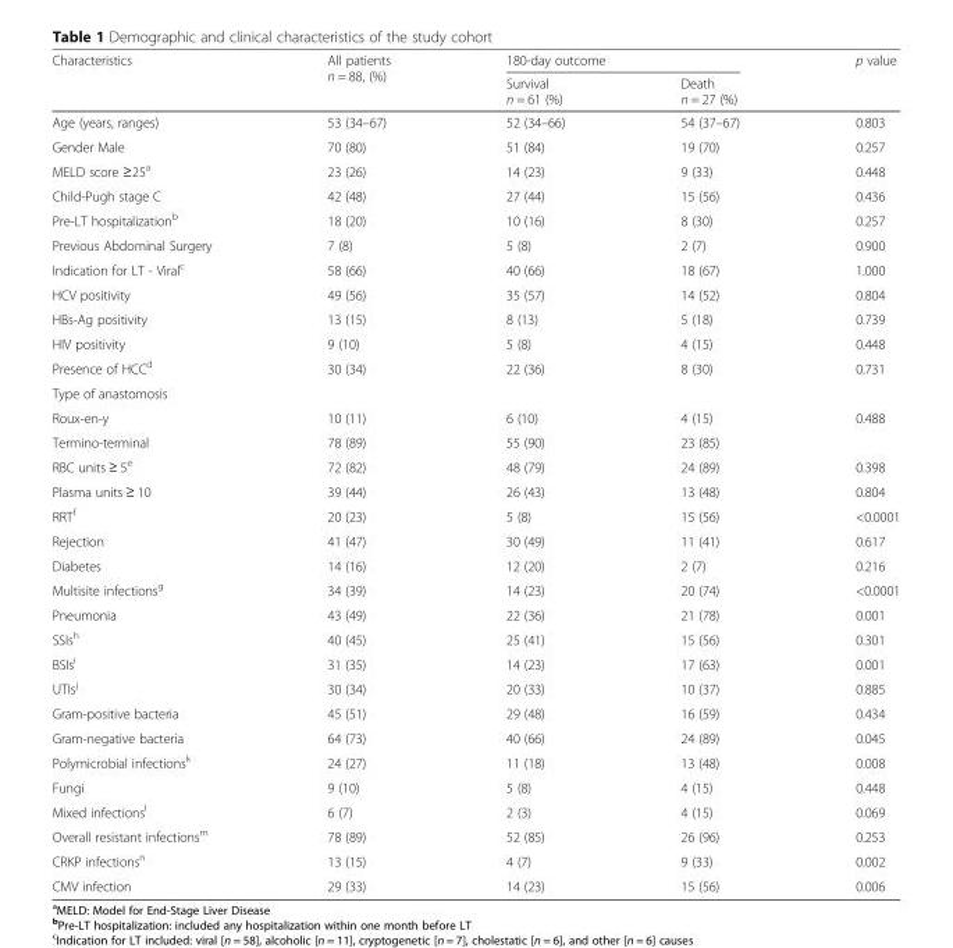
<table><thead><tr><td rowspan="2">Characteristics</td><td rowspan="2">All patients n = 88, (%)</td><td colspan="2">180-day outcome</td><td rowspan="2">p value</td></tr><tr><td>Survival n = 61 (%)</td><td>Death n = 27 (%)</td></tr></thead><tbody><tr><td>Age (years, ranges)</td><td>53 (34–67)</td><td>52 (34–66)</td><td>54 (37–67)</td><td>0.803</td></tr><tr><td>Gender Male</td><td>70 (80)</td><td>51 (84)</td><td>19 (70)</td><td>0.257</td></tr><tr><td>MELD score ≥25<sup>a</sup></td><td>23 (26)</td><td>14 (23)</td><td>9 (33)</td><td>0.448</td></tr><tr><td>Child-Pugh stage C</td><td>42 (48)</td><td>27 (44)</td><td>15 (56)</td><td>0.436</td></tr><tr><td>Pre-LT hospitalization<sup>b</sup></td><td>18 (20)</td><td>10 (16)</td><td>8 (30)</td><td>0.257</td></tr><tr><td>Previous Abdominal Surgery</td><td>7 (8)</td><td>5 (8)</td><td>2 (7)</td><td>0.900</td></tr><tr><td>Indication for LT - Viral<sup>c</sup></td><td>58 (66)</td><td>40 (66)</td><td>18 (67)</td><td>1.000</td></tr><tr><td>HCV positivity</td><td>49 (56)</td><td>35 (57)</td><td>14 (52)</td><td>0.804</td></tr><tr><td>HBs-Ag positivity</td><td>13 (15)</td><td>8 (13)</td><td>5 (18)</td><td>0.739</td></tr><tr><td>HIV positivity</td><td>9 (10)</td><td>5 (8)</td><td>4 (15)</td><td>0.448</td></tr><tr><td>Presence of HCC<sup>d</sup></td><td>30 (34)</td><td>22 (36)</td><td>8 (30)</td><td>0.731</td></tr><tr><td colspan="5">Type of anastomosis</td></tr><tr><td>Roux-en-y</td><td>10 (11)</td><td>6 (10)</td><td>4 (15)</td><td>0.488</td></tr><tr><td>Termino-terminal</td><td>78 (89)</td><td>55 (90)</td><td>23 (85)</td><td></td></tr><tr><td>RBC units ≥ 5<sup>e</sup></td><td>72 (82)</td><td>48 (79)</td><td>24 (89)</td><td>0.398</td></tr><tr><td>Plasma units ≥ 10</td><td>39 (44)</td><td>26 (43)</td><td>13 (48)</td><td>0.804</td></tr><tr><td>RRT<sup>f</sup></td><td>20 (23)</td><td>5 (8)</td><td>15 (56)</td><td>&lt;0.0001</td></tr><tr><td>Rejection</td><td>41 (47)</td><td>30 (49)</td><td>11 (41)</td><td>0.617</td></tr><tr><td>Diabetes</td><td>14 (16)</td><td>12 (20)</td><td>2 (7)</td><td>0.216</td></tr><tr><td>Multisite infections<sup>g</sup></td><td>34 (39)</td><td>14 (23)</td><td>20 (74)</td><td>&lt;0.0001</td></tr><tr><td>Pneumonia</td><td>43 (49)</td><td>22 (36)</td><td>21 (78)</td><td>0.001</td></tr><tr><td>SSIs<sup>h</sup></td><td>40 (45)</td><td>25 (41)</td><td>15 (56)</td><td>0.301</td></tr><tr><td>BSIs<sup>i</sup></td><td>31 (35)</td><td>14 (23)</td><td>17 (63)</td><td>0.001</td></tr><tr><td>UTIs<sup>j</sup></td><td>30 (34)</td><td>20 (33)</td><td>10 (37)</td><td>0.885</td></tr><tr><td>Gram-positive bacteria</td><td>45 (51)</td><td>29 (48)</td><td>16 (59)</td><td>0.434</td></tr><tr><td>Gram-negative bacteria</td><td>64 (73)</td><td>40 (66)</td><td>24 (89)</td><td>0.045</td></tr><tr><td>Polymicrobial infections<sup>k</sup></td><td>24 (27)</td><td>11 (18)</td><td>13 (48)</td><td>0.008</td></tr><tr><td>Fungi</td><td>9 (10)</td><td>5 (8)</td><td>4 (15)</td><td>0.448</td></tr><tr><td>Mixed infections<sup>l</sup></td><td>6 (7)</td><td>2 (3)</td><td>4 (15)</td><td>0.069</td></tr><tr><td>Overall resistant infections<sup>m</sup></td><td>78 (89)</td><td>52 (85)</td><td>26 (96)</td><td>0.253</td></tr><tr><td>CRKP infections<sup>n</sup></td><td>13 (15)</td><td>4 (7)</td><td>9 (33)</td><td>0.002</td></tr><tr><td>CMV infection</td><td>29 (33)</td><td>14 (23)</td><td>15 (56)</td><td>0.006</td></tr></tbody></table>